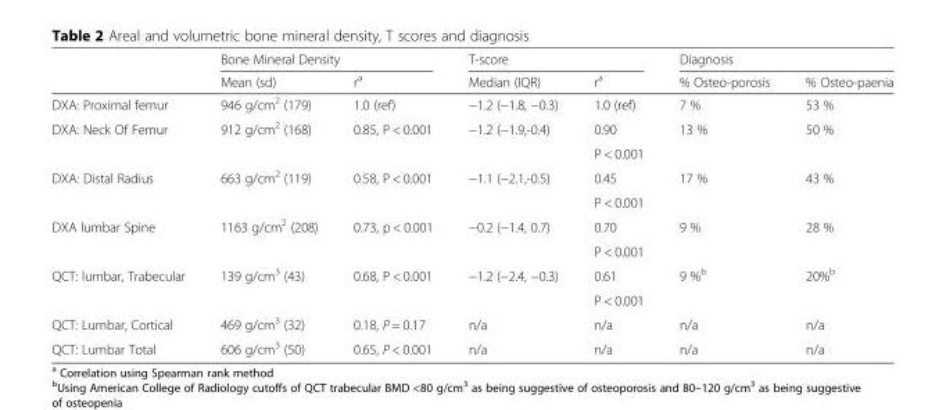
<table><thead><tr><td rowspan="2"></td><td colspan="2">Bone Mineral Density</td><td colspan="2">T-score</td><td colspan="2">Diagnosis</td></tr><tr><td>Mean (sd)</td><td>r<sup>a</sup></td><td>Median (IQR)</td><td>r<sup>a</sup></td><td>% Osteo-porosis</td><td>% Osteo-paenia</td></tr></thead><tbody><tr><td>DXA: Proximal femur</td><td>946 g/cm<sup>2</sup> (179)</td><td>1.0 (ref)</td><td>−1.2 (−1.8, −0.3)</td><td>1.0 (ref)</td><td>7 %</td><td>53 %</td></tr><tr><td rowspan="2">DXA: Neck Of Femur</td><td rowspan="2">912 g/cm<sup>2</sup> (168)</td><td rowspan="2">0.85, P &lt; 0.001</td><td rowspan="2">−1.2 (−1.9,-0.4)</td><td>0.90</td><td rowspan="2">13 %</td><td rowspan="2">50 %</td></tr><tr><td>P &lt; 0.001</td></tr><tr><td rowspan="2">DXA: Distal Radius</td><td rowspan="2">663 g/cm<sup>2</sup> (119)</td><td rowspan="2">0.58, P &lt; 0.001</td><td rowspan="2">−1.1 (−2.1,-0.5)</td><td>0.45</td><td rowspan="2">17 %</td><td rowspan="2">43 %</td></tr><tr><td>P &lt; 0.001</td></tr><tr><td rowspan="2">DXA lumbar Spine</td><td rowspan="2">1163 g/cm<sup>2</sup> (208)</td><td rowspan="2">0.73, p &lt; 0.001</td><td rowspan="2">−0.2 (−1.4, 0.7)</td><td>0.70</td><td rowspan="2">9 %</td><td rowspan="2">28 %</td></tr><tr><td>P &lt; 0.001</td></tr><tr><td rowspan="2">QCT: lumbar, Trabecular</td><td rowspan="2">139 g/cm<sup>3</sup> (43)</td><td rowspan="2">0.68, P &lt; 0.001</td><td rowspan="2">−1.2 (−2.4, −0.3)</td><td>0.61</td><td rowspan="2">9 %<sup>b</sup></td><td rowspan="2">20%<sup>b</sup></td></tr><tr><td>P &lt; 0.001</td></tr><tr><td>QCT: Lumbar, Cortical</td><td>469 g/cm<sup>3</sup> (32)</td><td>0.18, P = 0.17</td><td>n/a</td><td>n/a</td><td>n/a</td><td>n/a</td></tr><tr><td>QCT: Lumbar Total</td><td>606 g/cm<sup>3</sup> (50)</td><td>0.65, P &lt; 0.001</td><td>n/a</td><td>n/a</td><td>n/a</td><td>n/a</td></tr></tbody></table>